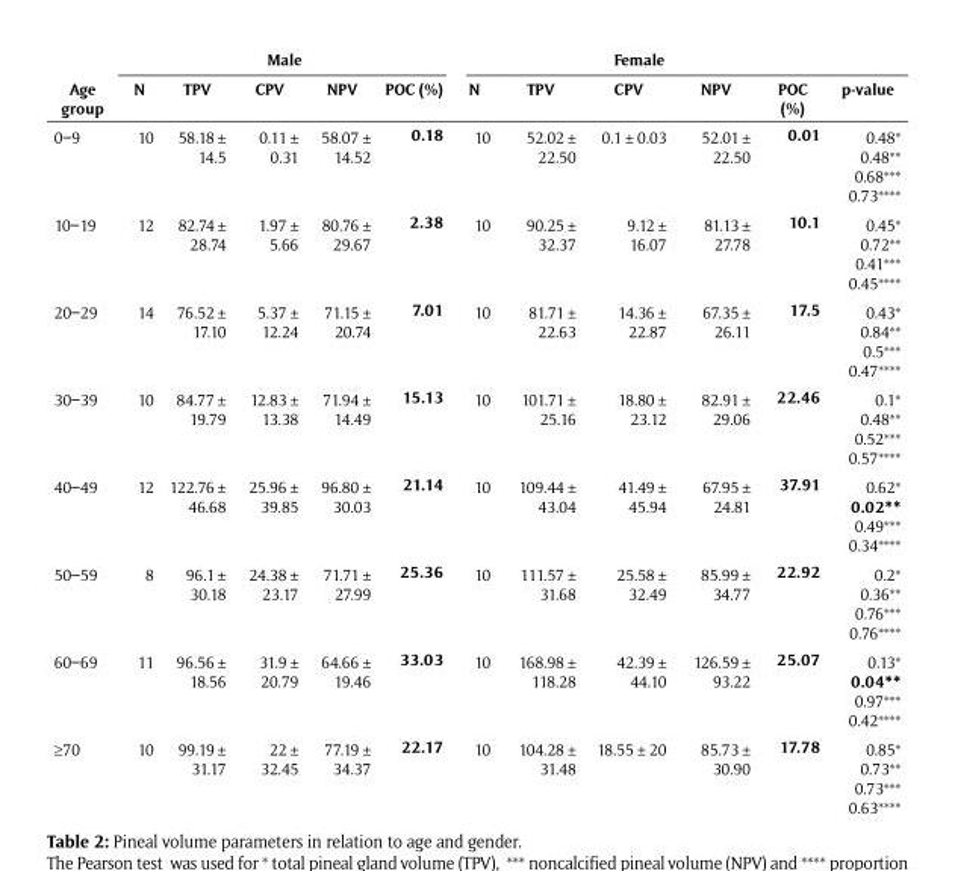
<table><thead><tr><td rowspan="2">Age group</td><td colspan="5">Male</td><td colspan="6">Female</td></tr><tr><td>N</td><td>TPV</td><td>CPV</td><td>NPV</td><td>POC (%)</td><td>N</td><td>TPV</td><td>CPV</td><td>NPV</td><td>POC (%)</td><td>p-value</td></tr></thead><tbody><tr><td>0–9</td><td>10</td><td>58.18 ± 14.5</td><td>0.11 ± 0.31</td><td>58.07 ± 14.52</td><td>0.18</td><td>10</td><td>52.02 ± 22.50</td><td>0.1 ± 0.03</td><td>52.01 ± 22.50</td><td>0.01</td><td>0.48* 0.48** 0.68*** 0.73****</td></tr><tr><td>10–19</td><td>12</td><td>82.74 ± 28.74</td><td>1.97 ± 5.66</td><td>80.76 ± 29.67</td><td>2.38</td><td>10</td><td>90.25 ± 32.37</td><td>9.12 ± 16.07</td><td>81.13 ± 27.78</td><td>10.1</td><td>0.45* 0.72** 0.41*** 0.45****</td></tr><tr><td>20–29</td><td>14</td><td>76.52 ± 17.10</td><td>5.37 ± 12.24</td><td>71.15 ± 20.74</td><td>7.01</td><td>10</td><td>81.71 ± 22.63</td><td>14.36 ± 22.87</td><td>67.35 ± 26.11</td><td>17.5</td><td>0.43* 0.84** 0.5*** 0.47****</td></tr><tr><td>30–39</td><td>10</td><td>84.77 ± 19.79</td><td>12.83 ± 13.38</td><td>71.94 ± 14.49</td><td>15.13</td><td>10</td><td>101.71 ± 25.16</td><td>18.80 ± 23.12</td><td>82.91 ± 29.06</td><td>22.46</td><td>0.1* 0.48** 0.52*** 0.57****</td></tr><tr><td>40–49</td><td>12</td><td>122.76 ± 46.68</td><td>25.96 ± 39.85</td><td>96.80 ± 30.03</td><td>21.14</td><td>10</td><td>109.44 ± 43.04</td><td>41.49 ± 45.94</td><td>67.95 ± 24.81</td><td>37.91</td><td>0.62* 0.02** 0.49*** 0.34****</td></tr><tr><td>50–59</td><td>8</td><td>96.1 ± 30.18</td><td>24.38 ± 23.17</td><td>71.71 ± 27.99</td><td>25.36</td><td>10</td><td>111.57 ± 31.68</td><td>25.58 ± 32.49</td><td>85.99 ± 34.77</td><td>22.92</td><td>0.2* 0.36** 0.76*** 0.76****</td></tr><tr><td>60–69</td><td>11</td><td>96.56 ± 18.56</td><td>31.9 ± 20.79</td><td>64.66 ± 19.46</td><td>33.03</td><td>10</td><td>168.98 ± 118.28</td><td>42.39 ± 44.10</td><td>126.59 ± 93.22</td><td>25.07</td><td>0.13* 0.04** 0.97*** 0.42****</td></tr><tr><td>≥70</td><td>10</td><td>99.19 ± 31.17</td><td>22 ± 32.45</td><td>77.19 ± 34.37</td><td>22.17</td><td>10</td><td>104.28 ± 31.48</td><td>18.55 ± 20</td><td>85.73 ± 30.90</td><td>17.78</td><td>0.85* 0.73** 0.73*** 0.63****</td></tr></tbody></table>